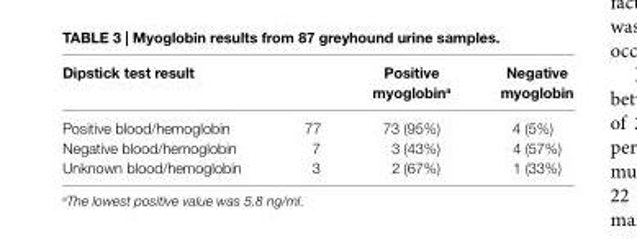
<table><thead><tr><td colspan="2">Dipstick test result</td><td rowspan="2">Positive myoglobin<sup>a</sup> 73 (95%)</td><td rowspan="2">negative myoglobin 4 (5%)</td></tr><tr><td>Positive blood/hemoglobin</td><td>77</td></tr></thead><tbody><tr><td>Negative blood/hemoglobin</td><td>7</td><td>3 (43%)</td><td>4 (57%)</td></tr><tr><td>Unknown blood/hemoglobin</td><td>3</td><td>2 (67%)</td><td>1 (33%)</td></tr></tbody></table>